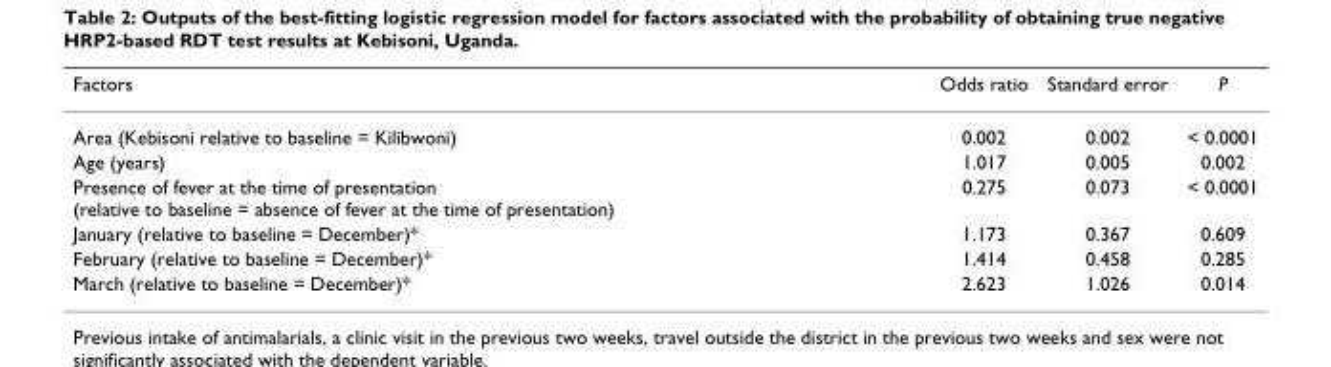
<table><thead><tr><td>Factors</td><td>Odds ratio</td><td>Standard error</td><td>P</td></tr></thead><tbody><tr><td>Area (Kebisoni relative to baseline = Kilibwoni)</td><td>0.002</td><td>0.002</td><td>&lt; 0.0001</td></tr><tr><td>Age (years)</td><td>1.017</td><td>0.005</td><td>0.002</td></tr><tr><td>Presence of fever at the time of presentation (relative to baseline = absence of fever at the time of presentation)</td><td>0.275</td><td>0.073</td><td>&lt; 0.0001</td></tr><tr><td>January (relative to baseline = December)*</td><td>1.173</td><td>0.367</td><td>0.609</td></tr><tr><td>February (relative to baseline = December)*</td><td>1.414</td><td>0.458</td><td>0.285</td></tr><tr><td>March (relative to baseline = December)*</td><td>2.623</td><td>1.026</td><td>0.014</td></tr></tbody></table>